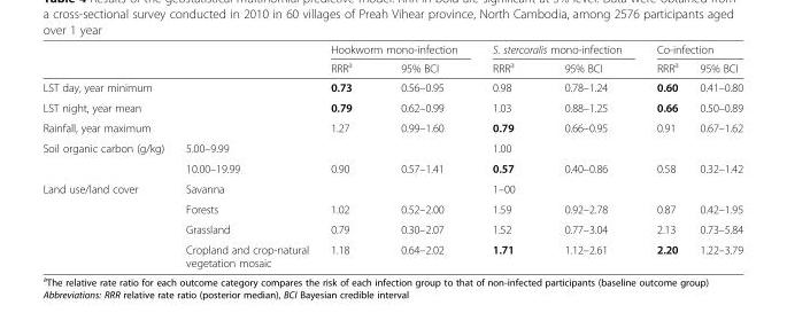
<table><thead><tr><td rowspan="2"></td><td rowspan="2"></td><td colspan="2">Hookworm mono-infection</td><td colspan="2">S. stercoralis mono-infection</td><td colspan="2">Co-infection</td></tr><tr><td>RRR<sup>a</sup></td><td>95% BCI</td><td>RRR<sup>a</sup></td><td>95% BCI</td><td>RRR<sup>a</sup></td><td>95% BCI</td></tr></thead><tbody><tr><td>LST day, year minimum</td><td></td><td>0.73</td><td>0.56–0.95</td><td>0.98</td><td>0.78–1.24</td><td>0.60</td><td>0.41–0.80</td></tr><tr><td>LST night, year mean</td><td></td><td>0.79</td><td>0.62–0.99</td><td>1.03</td><td>0.88–1.25</td><td>0.66</td><td>0.50–0.89</td></tr><tr><td>Rainfall, year maximum</td><td></td><td>1.27</td><td>0.99–1.60</td><td>0.79</td><td>0.66–0.95</td><td>0.91</td><td>0.67–1.62</td></tr><tr><td rowspan="2">Soil organic carbon (g/kg)</td><td>5.00–9.99</td><td></td><td></td><td>1.00</td><td></td><td></td><td></td></tr><tr><td>10.00–19.99</td><td>0.90</td><td>0.57–1.41</td><td>0.57</td><td>0.40–0.86</td><td>0.58</td><td>0.32–1.42</td></tr><tr><td rowspan="4">Land use/land cover</td><td>Savanna</td><td></td><td></td><td>1–00</td><td></td><td></td><td></td></tr><tr><td>Forests</td><td>1.02</td><td>0.52–2.00</td><td>1.59</td><td>0.92–2.78</td><td>0.87</td><td>0.42–1.95</td></tr><tr><td>Grassland</td><td>0.79</td><td>0.30–2.07</td><td>1.52</td><td>0.77–3.04</td><td>2.13</td><td>0.73–5.84</td></tr><tr><td>Cropland and crop-natural vegetation mosaic</td><td>1.18</td><td>0.64–2.02</td><td>1.71</td><td>1.12–2.61</td><td>2.20</td><td>1.22–3.79</td></tr></tbody></table>